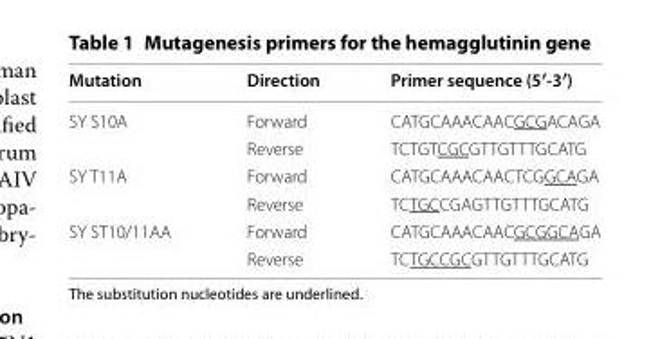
<table><thead><tr><td>Mutation</td><td>Direction</td><td>Primer sequence (5′‑3′)</td></tr></thead><tbody><tr><td rowspan="2">SY S10A</td><td>Forward</td><td>CATGCAAACAACGCGACAGA</td></tr><tr><td>Reverse</td><td>TCTGTCGCGTTGTTTGCATG</td></tr><tr><td rowspan="2">SY T11A</td><td>Forward</td><td>CATGCAAACAACTCGGCAGA</td></tr><tr><td>Reverse</td><td>TCTGCCGAGTTGTTTGCATG</td></tr><tr><td rowspan="2">SY ST10/11AA</td><td>Forward</td><td>CATGCAAACAACGCGGCAGA</td></tr><tr><td>Reverse</td><td>TCTGCCGCGTTGTTTGCATG</td></tr></tbody></table>